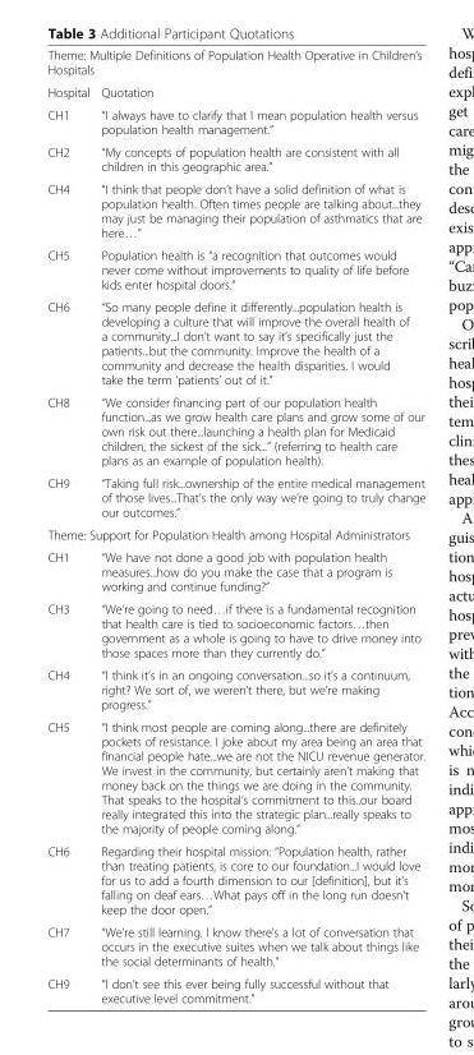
<table><tbody><tr><td colspan="2">Theme: Multiple Definitions of Population Health Operative in Children’s Hospitals</td></tr><tr><td>Hospital</td><td>Quotation</td></tr><tr><td>CH1</td><td>“I always have to clarify that I mean population health versus population health management.”</td></tr><tr><td>CH2</td><td>“My concepts of population health are consistent with all children in this geographic area.”</td></tr><tr><td>CH4</td><td>“I think that people don’t have a solid definition of what is population health. Often times people are talking about...they may just be managing their population of asthmatics that are here…”</td></tr><tr><td>CH5</td><td>Population health is “a recognition that outcomes would never come without improvements to quality of life before kids enter hospital doors.”</td></tr><tr><td>CH6</td><td>“So many people define it differently...population health is developing a culture that will improve the overall health of a community...I don’t want to say it’s specifically just the patients...but the community. Improve the health of a community and decrease the health disparities. I would take the term ‘patients’ out of it.”</td></tr><tr><td>CH8</td><td>“We consider financing part of our population health function...as we grow health care plans and grow some of our own risk out there...launching a health plan for Medicaid children, the sickest of the sick...” (referring to health care plans as an example of population health).</td></tr><tr><td>CH9</td><td>“Taking full risk...ownership of the entire medical management of those lives...That’s the only way we’re going to truly change our outcomes.”</td></tr><tr><td colspan="2">Theme: Support for Population Health among Hospital Administrators</td></tr><tr><td>CH1</td><td>“We have not done a good job with population health measures...how do you make the case that a program is working and continue funding?”</td></tr><tr><td>CH3</td><td>“We’re going to need…if there is a fundamental recognition that health care is tied to socioeconomic factors…then government as a whole is going to have to drive money into those spaces more than they currently do.”</td></tr><tr><td>CH4</td><td>“I think it’s in an ongoing conversation...so it’s a continuum, right? We sort of, we weren’t there, but we’re making progress.”</td></tr><tr><td>CH5</td><td>“I think most people are coming along...there are definitely pockets of resistance. I joke about my area being an area that financial people hate...we are not the NICU revenue generator. We invest in the community, but certainly aren’t making that money back on the things we are doing in the community. That speaks to the hospital’s commitment to this..our board really integrated this into the strategic plan...really speaks to the majority of people coming along.”</td></tr><tr><td>CH6</td><td>Regarding their hospital mission: “Population health, rather than treating patients, is core to our foundation...I would love for us to add a fourth dimension to our [definition], but it’s falling on deaf ears…What pays off in the long run doesn’t keep the door open.”</td></tr><tr><td>CH7</td><td>“We’re still learning. I know there’s a lot of conversation that occurs in the executive suites when we talk about things like the social determinants of health.”</td></tr><tr><td>CH9</td><td>“I don’t see this ever being fully successful without that executive level commitment.”</td></tr></tbody></table>